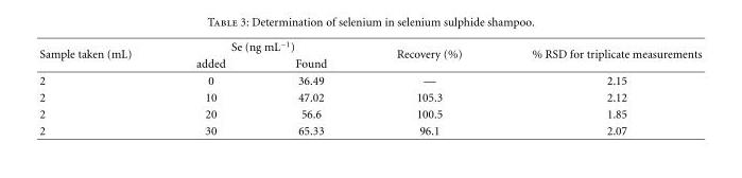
<table><thead><tr><td rowspan="2">Sample taken (mL)</td><td colspan="2">Se (ng mL<sup>−1</sup>)</td><td rowspan="2">Recovery (%)</td><td rowspan="2">% RSD for triplicate measurements</td></tr><tr><td>added</td><td>Found</td></tr></thead><tbody><tr><td>2</td><td>0</td><td>36.49</td><td>—</td><td>2.15</td></tr><tr><td>2</td><td>10</td><td>47.02</td><td>105.3</td><td>2.12</td></tr><tr><td>2</td><td>20</td><td>56.6</td><td>100.5</td><td>1.85</td></tr><tr><td>2</td><td>30</td><td>65.33</td><td>96.1</td><td>2.07</td></tr></tbody></table>